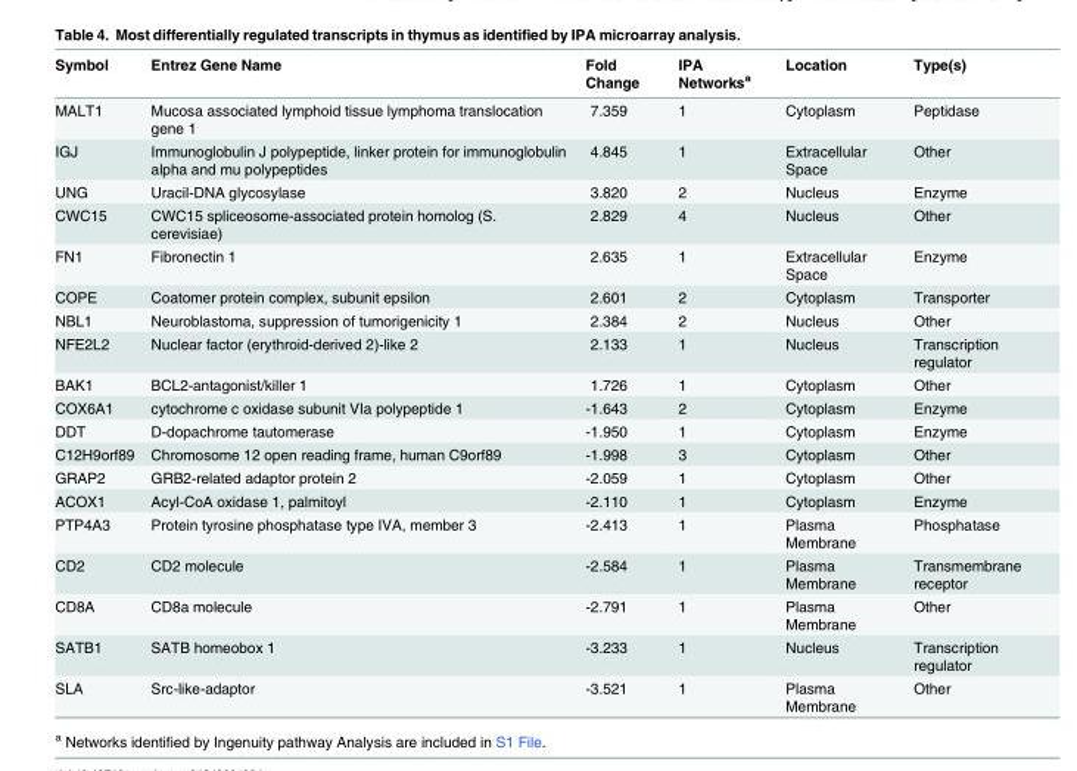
<table><thead><tr><td>Symbol</td><td>Entrez Gene Name</td><td>Fold Change</td><td>IPA Networks<sup>a</sup></td><td>Location</td><td>Type(s)</td></tr></thead><tbody><tr><td>MALT1</td><td>Mucosa associated lymphoid tissue lymphoma translocation gene 1</td><td>7.359</td><td>1</td><td>Cytoplasm</td><td>Peptidase</td></tr><tr><td>IGJ</td><td>Immunoglobulin J polypeptide, linker protein for immunoglobulin alpha and mu polypeptides</td><td>4.845</td><td>1</td><td>Extracellular Space</td><td>Other</td></tr><tr><td>UNG</td><td>Uracil-DNA glycosylase</td><td>3.820</td><td>2</td><td>Nucleus</td><td>Enzyme</td></tr><tr><td>CWC15</td><td>CWC15 spliceosome-associated protein homolog (S. cerevisiae)</td><td>2.829</td><td>4</td><td>Nucleus</td><td>Other</td></tr><tr><td>FN1</td><td>Fibronectin 1</td><td>2.635</td><td>1</td><td>Extracellular Space</td><td>Enzyme</td></tr><tr><td>COPE</td><td>Coatomer protein complex, subunit epsilon</td><td>2.601</td><td>2</td><td>Cytoplasm</td><td>Transporter</td></tr><tr><td>NBL1</td><td>Neuroblastoma, suppression of tumorigenicity 1</td><td>2.384</td><td>2</td><td>Nucleus</td><td>Other</td></tr><tr><td>NFE2L2</td><td>Nuclear factor (erythroid-derived 2)-like 2</td><td>2.133</td><td>1</td><td>Nucleus</td><td>Transcription regulator</td></tr><tr><td>BAK1</td><td>BCL2-antagonist/killer 1</td><td>1.726</td><td>1</td><td>Cytoplasm</td><td>Other</td></tr><tr><td>COX6A1</td><td>cytochrome c oxidase subunit VIa polypeptide 1</td><td>-1.643</td><td>2</td><td>Cytoplasm</td><td>Enzyme</td></tr><tr><td>DDT</td><td>D-dopachrome tautomerase</td><td>-1.950</td><td>1</td><td>Cytoplasm</td><td>Enzyme</td></tr><tr><td>C12H9orf89</td><td>Chromosome 12 open reading frame, human C9orf89</td><td>-1.998</td><td>3</td><td>Cytoplasm</td><td>Other</td></tr><tr><td>GRAP2</td><td>GRB2-related adaptor protein 2</td><td>-2.059</td><td>1</td><td>Cytoplasm</td><td>Other</td></tr><tr><td>ACOX1</td><td>Acyl-CoA oxidase 1, palmitoyl</td><td>-2.110</td><td>1</td><td>Cytoplasm</td><td>Enzyme</td></tr><tr><td>PTP4A3</td><td>Protein tyrosine phosphatase type IVA, member 3</td><td>-2.413</td><td>1</td><td>Plasma Membrane</td><td>Phosphatase</td></tr><tr><td>CD2</td><td>CD2 molecule</td><td>-2.584</td><td>1</td><td>Plasma Membrane</td><td>Transmembrane receptor</td></tr><tr><td>CD8A</td><td>CD8a molecule</td><td>-2.791</td><td>1</td><td>Plasma Membrane</td><td>Other</td></tr><tr><td>SATB1</td><td>SATB homeobox 1</td><td>-3.233</td><td>1</td><td>Nucleus</td><td>Transcription regulator</td></tr><tr><td>SLA</td><td>Src-like-adaptor</td><td>-3.521</td><td>1</td><td>Plasma Membrane</td><td>Other</td></tr></tbody></table>